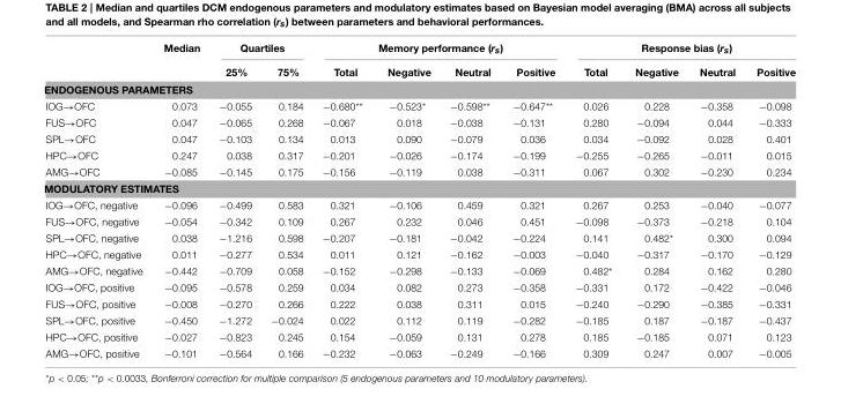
<table><thead><tr><td rowspan="2"></td><td rowspan="2">Median</td><td colspan="2">Quartiles</td><td colspan="4">Memory performance (r<sub>s</sub>)</td><td colspan="4">Response bias (r<sub>s</sub>)</td></tr><tr><td>25%</td><td>75%</td><td>Total</td><td>Negative</td><td>Neutral</td><td>Positive</td><td>Total</td><td>Negative</td><td>Neutral</td><td>Positive</td></tr></thead><tbody><tr><td colspan="12">ENDOGENOUS PARAMETERS</td></tr><tr><td>IOG→OFC</td><td>0.073</td><td>−0.055</td><td>0.184</td><td>−0.680**</td><td>−0.523*</td><td>−0.598**</td><td>−0.647**</td><td>0.026</td><td>0.228</td><td>−0.358</td><td>−0.098</td></tr><tr><td>FUS→OFC</td><td>0.047</td><td>−0.065</td><td>0.268</td><td>−0.067</td><td>0.018</td><td>−0.038</td><td>−0.131</td><td>0.280</td><td>−0.094</td><td>0.044</td><td>−0.333</td></tr><tr><td>SPL→OFC</td><td>0.047</td><td>−0.103</td><td>0.134</td><td>0.013</td><td>0.090</td><td>−0.079</td><td>0.036</td><td>0.034</td><td>−0.092</td><td>0.028</td><td>0.401</td></tr><tr><td>HPC→OFC</td><td>0.247</td><td>0.038</td><td>0.317</td><td>−0.201</td><td>−0.026</td><td>−0.174</td><td>−0.199</td><td>−0.255</td><td>−0.265</td><td>−0.011</td><td>0.015</td></tr><tr><td>AMG→OFC</td><td>−0.085</td><td>−0.145</td><td>0.175</td><td>−0.156</td><td>−0.119</td><td>0.038</td><td>−0.311</td><td>0.067</td><td>0.302</td><td>−0.230</td><td>0.234</td></tr><tr><td colspan="12">MODULATORY ESTIMATES</td></tr><tr><td>IOG→OFC, negative</td><td>−0.096</td><td>−0.499</td><td>0.583</td><td>0.321</td><td>−0.106</td><td>0.459</td><td>0.321</td><td>0.267</td><td>0.253</td><td>−0.040</td><td>−0.077</td></tr><tr><td>FUS→OFC, negative</td><td>−0.054</td><td>−0.342</td><td>0.109</td><td>0.267</td><td>0.232</td><td>0.046</td><td>0.451</td><td>−0.098</td><td>−0.373</td><td>−0.218</td><td>0.104</td></tr><tr><td>SPL→OFC, negative</td><td>0.038</td><td>−1.216</td><td>0.598</td><td>−0.207</td><td>−0.181</td><td>−0.042</td><td>−0.224</td><td>0.141</td><td>0.482*</td><td>0.300</td><td>0.094</td></tr><tr><td>HPC→OFC, negative</td><td>0.011</td><td>−0.277</td><td>0.534</td><td>0.011</td><td>0.121</td><td>−0.162</td><td>−0.003</td><td>−0.040</td><td>−0.317</td><td>−0.170</td><td>−0.129</td></tr><tr><td>AMG→OFC, negative</td><td>−0.442</td><td>−0.709</td><td>0.058</td><td>−0.152</td><td>−0.298</td><td>−0.133</td><td>−0.069</td><td>0.482*</td><td>0.284</td><td>0.162</td><td>0.280</td></tr><tr><td>IOG→OFC, positive</td><td>−0.095</td><td>−0.578</td><td>0.259</td><td>0.034</td><td>0.082</td><td>0.273</td><td>−0.358</td><td>−0.331</td><td>0.172</td><td>−0.422</td><td>−0.046</td></tr><tr><td>FUS→OFC, positive</td><td>−0.008</td><td>−0.270</td><td>0.266</td><td>0.222</td><td>0.038</td><td>0.311</td><td>0.015</td><td>−0.240</td><td>−0.290</td><td>−0.385</td><td>−0.331</td></tr><tr><td>SPL→OFC, positive</td><td>−0.450</td><td>−1.272</td><td>−0.024</td><td>0.022</td><td>0.112</td><td>0.119</td><td>−0.282</td><td>−0.185</td><td>0.187</td><td>−0.187</td><td>−0.437</td></tr><tr><td>HPC→OFC, positive</td><td>−0.027</td><td>−0.823</td><td>0.245</td><td>0.154</td><td>−0.059</td><td>0.131</td><td>0.278</td><td>0.185</td><td>−0.185</td><td>0.071</td><td>0.123</td></tr><tr><td>AMG→OFC, positive</td><td>−0.101</td><td>−0.564</td><td>0.166</td><td>−0.232</td><td>−0.063</td><td>−0.249</td><td>−0.166</td><td>0.309</td><td>0.247</td><td>0.007</td><td>−0.005</td></tr></tbody></table>